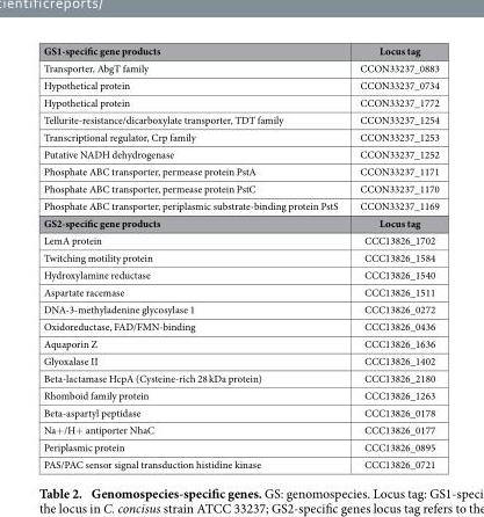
<table><thead><tr><td>GS1-specific gene products</td><td>Locus tag</td></tr></thead><tbody><tr><td>Transporter, AbgT family</td><td>CCON33237_0883</td></tr><tr><td>Hypothetical protein</td><td>CCON33237_0734</td></tr><tr><td>Hypothetical protein</td><td>CCON33237_1772</td></tr><tr><td>Tellurite-resistance/dicarboxylate transporter, TDT family</td><td>CCON33237_1254</td></tr><tr><td>Transcriptional regulator, Crp family</td><td>CCON33237_1253</td></tr><tr><td>Putative NADH dehydrogenase</td><td>CCON33237_1252</td></tr><tr><td>Phosphate ABC transporter, permease protein PstA</td><td>CCON33237_1171</td></tr><tr><td>Phosphate ABC transporter, permease protein PstC</td><td>CCON33237_1170</td></tr><tr><td>Phosphate ABC transporter, periplasmic substrate-binding protein PstS</td><td>CCON33237_1169</td></tr><tr><td>GS2-specific gene products</td><td>Locus tag</td></tr><tr><td>LemA protein</td><td>CCC13826_1702</td></tr><tr><td>Twitching motility protein</td><td>CCC13826_1584</td></tr><tr><td>Hydroxylamine reductase</td><td>CCC13826_1540</td></tr><tr><td>Aspartate racemase</td><td>CCC13826_1511</td></tr><tr><td>DNA-3-methyladenine glycosylase 1</td><td>CCC13826_0272</td></tr><tr><td>Oxidoreductase, FAD/FMN-binding</td><td>CCC13826_0436</td></tr><tr><td>Aquaporin Z</td><td>CCC13826_1636</td></tr><tr><td>Glyoxalase II</td><td>CCC13826_1402</td></tr><tr><td>Beta-lactamase HcpA (Cysteine-rich 28 kDa protein)</td><td>CCC13826_2180</td></tr><tr><td>Rhomboid family protein</td><td>CCC13826_1263</td></tr><tr><td>Beta-aspartyl peptidase</td><td>CCC13826_0178</td></tr><tr><td>Na+ /H+ antiporter NhaC</td><td>CCC13826_0177</td></tr><tr><td>Periplasmic protein</td><td>CCC13826_0895</td></tr><tr><td>PAS/PAC sensor signal transduction histidine kinase</td><td>CCC13826_0721</td></tr></tbody></table>